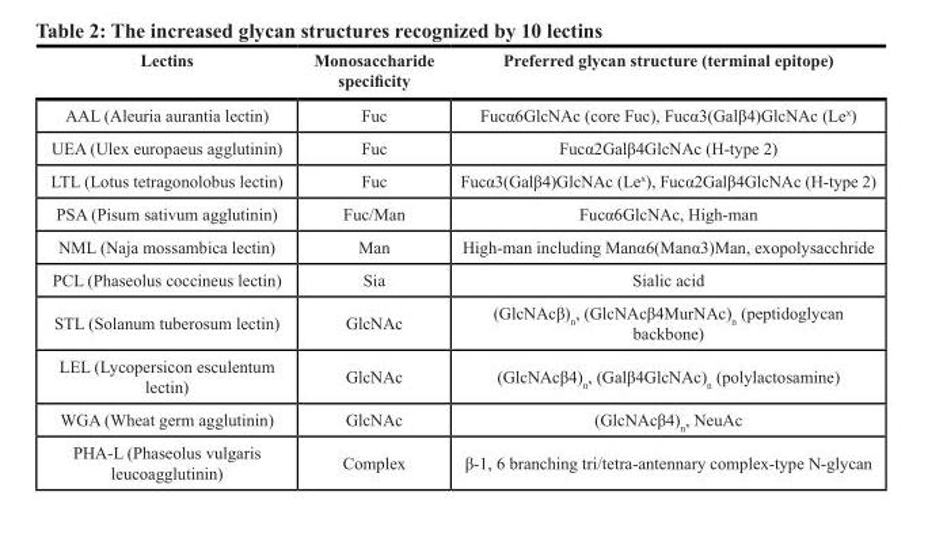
<table><thead><tr><td>Lectins</td><td>Monosaccharide specificity</td><td>Preferred glycan structure (terminal epitope)</td></tr></thead><tbody><tr><td>AAL (Aleuria aurantia lectin)</td><td>Fuc</td><td>Fucα6GlcNAc (core Fuc), Fucα3(Galβ4)GlcNAc (Le<sup>x</sup>)</td></tr><tr><td>UEA (Ulex europaeus agglutinin)</td><td>Fuc</td><td>Fucα2Galβ4GlcNAc (H-type 2)</td></tr><tr><td>LTL (Lotus tetragonolobus lectin)</td><td>Fuc</td><td>Fucα3(Galβ4)GlcNAc (Le<sup>x</sup>), Fucα2Galβ4GlcNAc (H-type 2)</td></tr><tr><td>PSA (Pisum sativum agglutinin)</td><td>Fuc/Man</td><td>Fucα6GlcNAc, High-man</td></tr><tr><td>NML (Naja mossambica lectin)</td><td>Man</td><td>High-man including Manα6(Manα3)Man, exopolysacchride</td></tr><tr><td>PCL (Phaseolus coccineus lectin)</td><td>Sia</td><td>Sialic acid</td></tr><tr><td>STL (Solanum tuberosum lectin)</td><td>GlcNAc</td><td>(GlcNAcβ)<sub>n</sub>, (GlcNAcβ4MurNAc)<sub>n</sub> (peptidoglycan backbone)</td></tr><tr><td>LEL (Lycopersicon esculentum lectin)</td><td>GlcNAc</td><td>(GlcNAcβ4)<sub>n</sub>, (Galβ4GlcNAc)<sub>n</sub> (polylactosamine)</td></tr><tr><td>WGA (Wheat germ agglutinin)</td><td>GlcNAc</td><td>(GlcNAcβ4)<sub>n</sub>, NeuAc</td></tr><tr><td>PHA-L (Phaseolus vulgaris leucoagglutinin)</td><td>Complex</td><td>β-1, 6 branching tri/tetra-antennary complex-type N-glycan</td></tr></tbody></table>